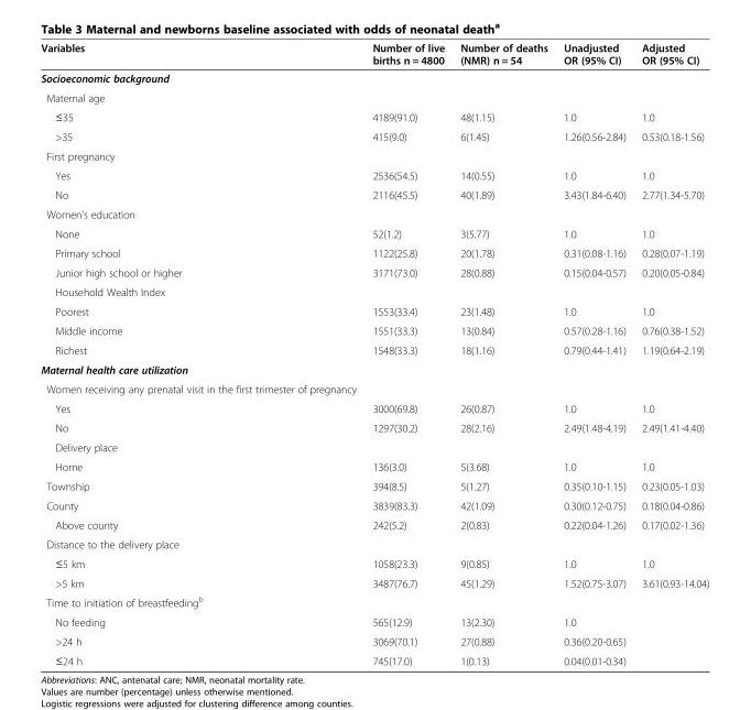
<table><thead><tr><td>Variables</td><td>Number of live births n = 4800</td><td>Number of deaths (NMR) n = 54</td><td>Unadjusted OR (95% CI)</td><td>Adjusted OR (95% CI)</td></tr></thead><tbody><tr><td colspan="5">Socioeconomic background</td></tr><tr><td colspan="5">Maternal age</td></tr><tr><td>≤35</td><td>4189(91.0)</td><td>48(1.15)</td><td>1.0</td><td>1.0</td></tr><tr><td>&gt;35</td><td>415(9.0)</td><td>6(1.45)</td><td>1.26(0.56-2.84)</td><td>0.53(0.18-1.56)</td></tr><tr><td colspan="5">First pregnancy</td></tr><tr><td>Yes</td><td>2536(54.5)</td><td>14(0.55)</td><td>1.0</td><td>1.0</td></tr><tr><td>No</td><td>2116(45.5)</td><td>40(1.89)</td><td>3.43(1.84-6.40)</td><td>2.77(1.34-5.70)</td></tr><tr><td colspan="5">Women’s education</td></tr><tr><td>None</td><td>52(1.2)</td><td>3(5.77)</td><td>1.0</td><td>1.0</td></tr><tr><td>Primary school</td><td>1122(25.8)</td><td>20(1.78)</td><td>0.31(0.08-1.16)</td><td>0.28(0.07-1.19)</td></tr><tr><td>Junior high school or higher</td><td>3171(73.0)</td><td>28(0.88)</td><td>0.15(0.04-0.57)</td><td>0.20(0.05-0.84)</td></tr><tr><td colspan="5">Household Wealth Index</td></tr><tr><td>Poorest</td><td>1553(33.4)</td><td>23(1.48)</td><td>1.0</td><td>1.0</td></tr><tr><td>Middle income</td><td>1551(33.3)</td><td>13(0.84)</td><td>0.57(0.28-1.16)</td><td>0.76(0.38-1.52)</td></tr><tr><td>Richest</td><td>1548(33.3)</td><td>18(1.16)</td><td>0.79(0.44-1.41)</td><td>1.19(0.64-2.19)</td></tr><tr><td colspan="5">Maternal health care utilization</td></tr><tr><td colspan="5">Women receiving any prenatal visit in the first trimester of pregnancy</td></tr><tr><td>Yes</td><td>3000(69.8)</td><td>26(0.87)</td><td>1.0</td><td>1.0</td></tr><tr><td>No</td><td>1297(30.2)</td><td>28(2.16)</td><td>2.49(1.48-4.19)</td><td>2.49(1.41-4.40)</td></tr><tr><td colspan="5">Delivery place</td></tr><tr><td>Home</td><td>136(3.0)</td><td>5(3.68)</td><td>1.0</td><td>1.0</td></tr><tr><td>Township</td><td>394(8.5)</td><td>5(1.27)</td><td>0.35(0.10-1.15)</td><td>0.23(0.05-1.03)</td></tr><tr><td>County</td><td>3839(83.3)</td><td>42(1.09)</td><td>0.30(0.12-0.75)</td><td>0.18(0.04-0.86)</td></tr><tr><td>Above county</td><td>242(5.2)</td><td>2(0.83)</td><td>0.22(0.04-1.26)</td><td>0.17(0.02-1.36)</td></tr><tr><td colspan="5">Distance to the delivery place</td></tr><tr><td>≤5 km</td><td>1058(23.3)</td><td>9(0.85)</td><td>1.0</td><td>1.0</td></tr><tr><td>&gt;5 km</td><td>3487(76.7)</td><td>45(1.29)</td><td>1.52(0.75-3.07)</td><td>3.61(0.93-14.04)</td></tr><tr><td colspan="5">Time to initiation of breastfeeding<sup>b</sup></td></tr><tr><td>No feeding</td><td>565(12.9)</td><td>13(2.30)</td><td>1.0</td><td></td></tr><tr><td>&gt;24 h</td><td>3069(70.1)</td><td>27(0.88)</td><td>0.36(0.20-0.65)</td><td></td></tr><tr><td>≤24 h</td><td>745(17.0)</td><td>1(0.13)</td><td>0.04(0.01-0.34)</td><td></td></tr></tbody></table>